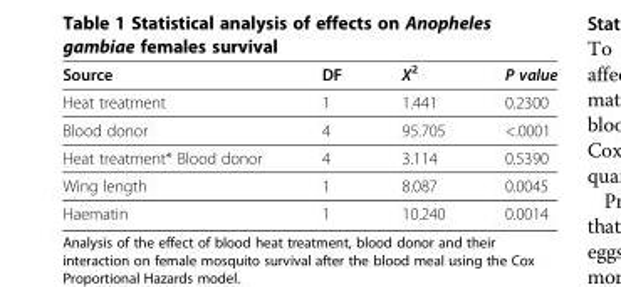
<table><thead><tr><td>Source</td><td>DF</td><td>X<sup>2</sup></td><td>P value</td></tr></thead><tbody><tr><td>Heat treatment</td><td>1</td><td>1.441</td><td>0.2300</td></tr><tr><td>Blood donor</td><td>4</td><td>95.705</td><td>&lt;.0001</td></tr><tr><td>Heat treatment* Blood donor</td><td>4</td><td>3.114</td><td>0.5390</td></tr><tr><td>Wing length</td><td>1</td><td>8.087</td><td>0.0045</td></tr><tr><td>Haematin</td><td>1</td><td>10.240</td><td>0.0014</td></tr></tbody></table>